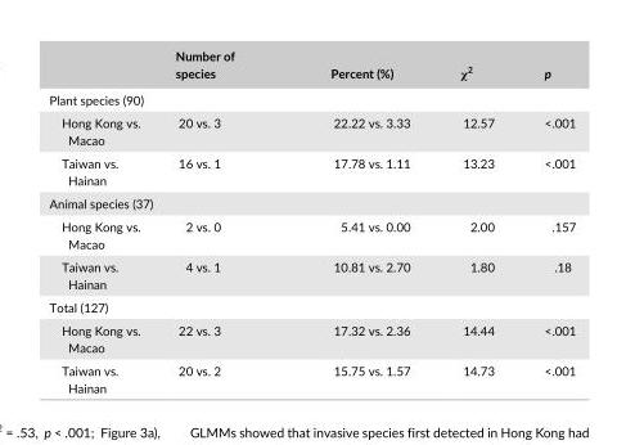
<table><thead><tr><td></td><td>Number of species</td><td>Percent (%)</td><td>χ<sup>2</sup></td><td>p</td></tr></thead><tbody><tr><td colspan="5">Plant species (90)</td></tr><tr><td>Hong Kong vs. Macao</td><td>20 vs. 3</td><td>22.22 vs. 3.33</td><td>12.57</td><td>&lt;.001</td></tr><tr><td>Taiwan vs. Hainan</td><td>16 vs. 1</td><td>17.78 vs. 1.11</td><td>13.23</td><td>&lt;.001</td></tr><tr><td colspan="5">Animal species (37)</td></tr><tr><td>Hong Kong vs. Macao</td><td>2 vs. 0</td><td>5.41 vs. 0.00</td><td>2.00</td><td>.157</td></tr><tr><td>Taiwan vs. Hainan</td><td>4 vs. 1</td><td>10.81 vs. 2.70</td><td>1.80</td><td>.18</td></tr><tr><td colspan="5">Total (127)</td></tr><tr><td>Hong Kong vs. Macao</td><td>22 vs. 3</td><td>17.32 vs. 2.36</td><td>14.44</td><td>&lt;.001</td></tr><tr><td>Taiwan vs. Hainan</td><td>20 vs. 2</td><td>15.75 vs. 1.57</td><td>14.73</td><td>&lt;.001</td></tr></tbody></table>